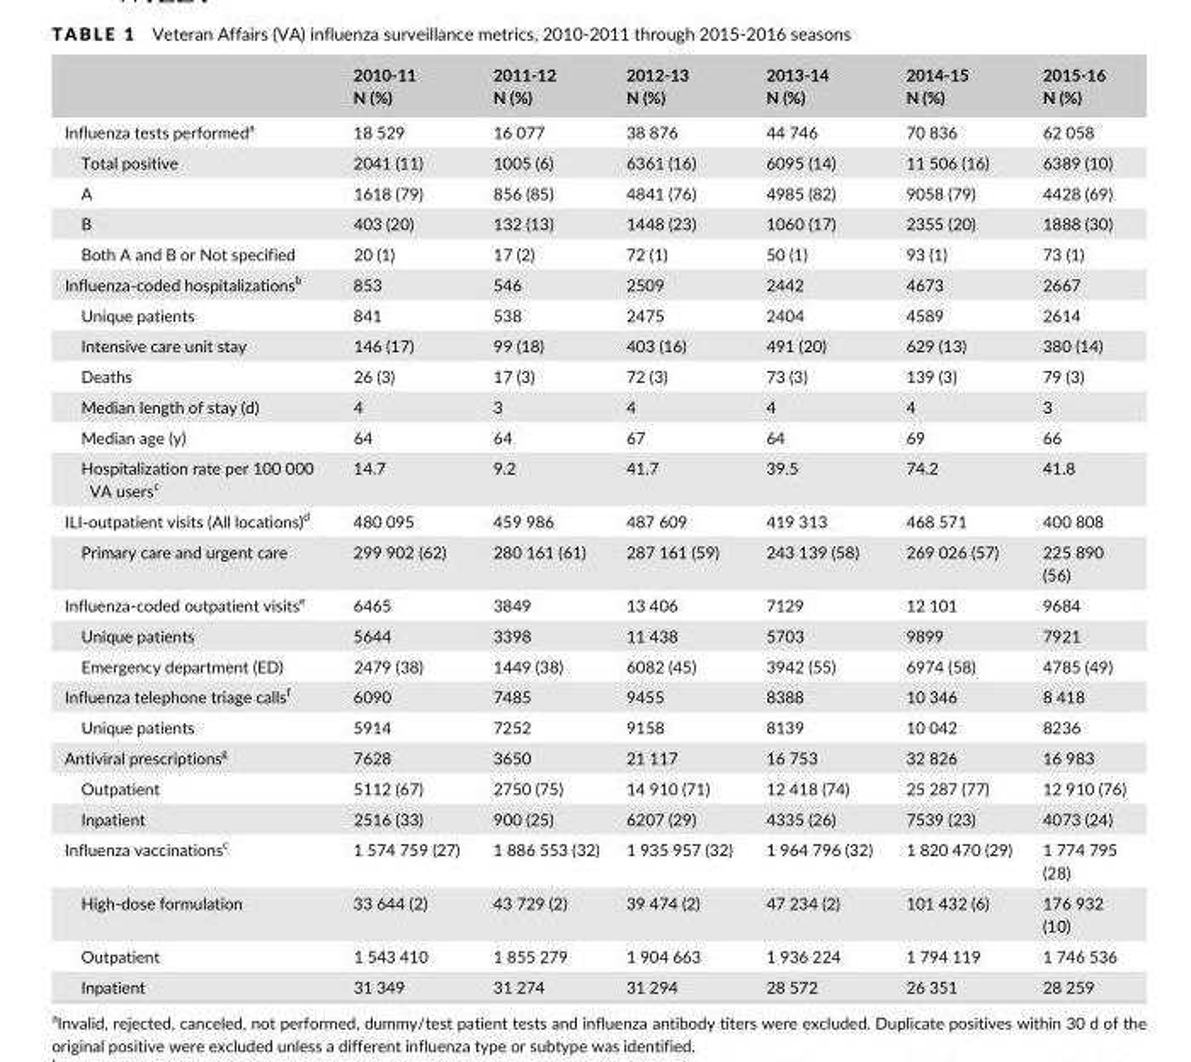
<table><thead><tr><td></td><td>2010- 11 N (%)</td><td>2011- 12 N (%)</td><td>2012- 13 N (%)</td><td>2013- 14 N (%)</td><td>2014- 15 N (%)</td><td>2015- 16 N (%)</td></tr></thead><tbody><tr><td>Influenza tests performed<sup>a</sup></td><td>18 529</td><td>16 077</td><td>38 876</td><td>44 746</td><td>70 836</td><td>62 058</td></tr><tr><td>Total positive</td><td>2041 (11)</td><td>1005 (6)</td><td>6361 (16)</td><td>6095 (14)</td><td>11 506 (16)</td><td>6389 (10)</td></tr><tr><td>A</td><td>1618 (79)</td><td>856 (85)</td><td>4841 (76)</td><td>4985 (82)</td><td>9058 (79)</td><td>4428 (69)</td></tr><tr><td>B</td><td>403 (20)</td><td>132 (13)</td><td>1448 (23)</td><td>1060 (17)</td><td>2355 (20)</td><td>1888 (30)</td></tr><tr><td>Both A and B or Not specified</td><td>20 (1)</td><td>17 (2)</td><td>72 (1)</td><td>50 (1)</td><td>93 (1)</td><td>73 (1)</td></tr><tr><td>Influenza- coded hospitalizations<sup>b</sup></td><td>853</td><td>546</td><td>2509</td><td>2442</td><td>4673</td><td>2667</td></tr><tr><td>Unique patients</td><td>841</td><td>538</td><td>2475</td><td>2404</td><td>4589</td><td>2614</td></tr><tr><td>Intensive care unit stay</td><td>146 (17)</td><td>99 (18)</td><td>403 (16)</td><td>491 (20)</td><td>629 (13)</td><td>380 (14)</td></tr><tr><td>Deaths</td><td>26 (3)</td><td>17 (3)</td><td>72 (3)</td><td>73 (3)</td><td>139 (3)</td><td>79 (3)</td></tr><tr><td>Median length of stay (d)</td><td>4</td><td>3</td><td>4</td><td>4</td><td>4</td><td>3</td></tr><tr><td>Median age (y)</td><td>64</td><td>64</td><td>67</td><td>64</td><td>69</td><td>66</td></tr><tr><td>Hospitalization rate per 100 000 VA users<sup>c</sup></td><td>14.7</td><td>9.2</td><td>41.7</td><td>39.5</td><td>74.2</td><td>41.8</td></tr><tr><td>ILI- outpatient visits (All locations)<sup>d</sup></td><td>480 095</td><td>459 986</td><td>487 609</td><td>419 313</td><td>468 571</td><td>400 808</td></tr><tr><td>Primary care and urgent care</td><td>299 902 (62)</td><td>280 161 (61)</td><td>287 161 (59)</td><td>243 139 (58)</td><td>269 026 (57)</td><td>225 890 (56)</td></tr><tr><td>Influenza- coded outpatient visits<sup>e</sup></td><td>6465</td><td>3849</td><td>13 406</td><td>7129</td><td>12 101</td><td>9684</td></tr><tr><td>Unique patients</td><td>5644</td><td>3398</td><td>11 438</td><td>5703</td><td>9899</td><td>7921</td></tr><tr><td>Emergency department (ED)</td><td>2479 (38)</td><td>1449 (38)</td><td>6082 (45)</td><td>3942 (55)</td><td>6974 (58)</td><td>4785 (49)</td></tr><tr><td>Influenza telephone triage calls<sup>f</sup></td><td>6090</td><td>7485</td><td>9455</td><td>8388</td><td>10 346</td><td>8 418</td></tr><tr><td>Unique patients</td><td>5914</td><td>7252</td><td>9158</td><td>8139</td><td>10 042</td><td>8236</td></tr><tr><td>Antiviral prescriptions<sup>g</sup></td><td>7628</td><td>3650</td><td>21 117</td><td>16 753</td><td>32 826</td><td>16 983</td></tr><tr><td>Outpatient</td><td>5112 (67)</td><td>2750 (75)</td><td>14 910 (71)</td><td>12 418 (74)</td><td>25 287 (77)</td><td>12 910 (76)</td></tr><tr><td>Inpatient</td><td>2516 (33)</td><td>900 (25)</td><td>6207 (29)</td><td>4335 (26)</td><td>7539 (23)</td><td>4073 (24)</td></tr><tr><td>Influenza vaccinations<sup>c</sup></td><td>1 574 759 (27)</td><td>1 886 553 (32)</td><td>1 935 957 (32)</td><td>1 964 796 (32)</td><td>1 820 470 (29)</td><td>1 774 795 (28)</td></tr><tr><td>High- dose formulation</td><td>33 644 (2)</td><td>43 729 (2)</td><td>39 474 (2)</td><td>47 234 (2)</td><td>101 432 (6)</td><td>176 932 (10)</td></tr><tr><td>Outpatient</td><td>1 543 410</td><td>1 855 279</td><td>1 904 663</td><td>1 936 224</td><td>1 794 119</td><td>1 746 536</td></tr><tr><td>Inpatient</td><td>31 349</td><td>31 274</td><td>31 294</td><td>28 572</td><td>26 351</td><td>28 259</td></tr></tbody></table>